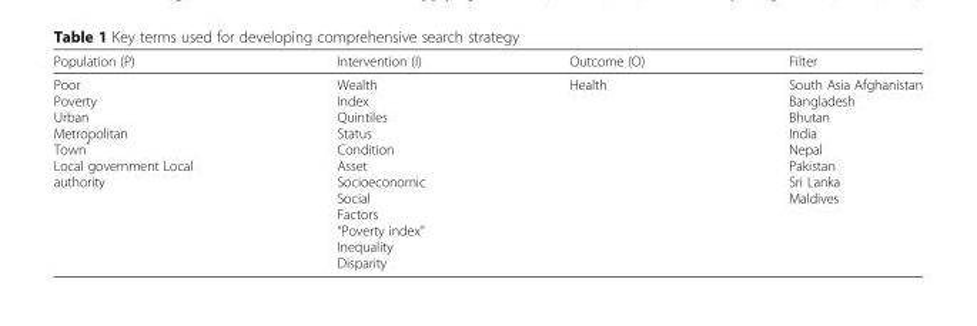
<table><thead><tr><td>Population (P)</td><td>Intervention (I)</td><td>Outcome (O)</td><td>Filter</td></tr></thead><tbody><tr><td>Poor Poverty Urban Metropolitan Town* Local government Local authority</td><td>Wealth Index Quintiles Status Condition Asset Socioeconomic Social Factors “Poverty index” Inequality Disparity</td><td>Health</td><td>South Asia Afghanistan Bangladesh Bhutan India Nepal Pakistan Sri Lanka Maldives</td></tr></tbody></table>